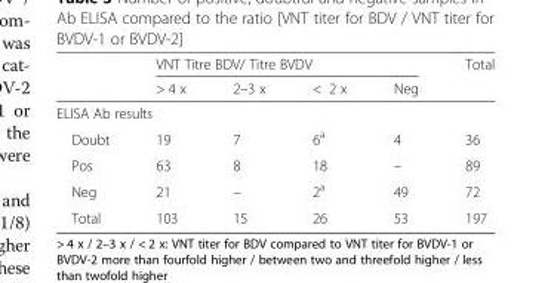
<table><thead><tr><td rowspan="2"></td><td colspan="4">VNT Titre BDV/ Titre BVDV</td><td rowspan="2">Total</td></tr><tr><td>&gt; 4 x</td><td>2–3 x</td><td>&lt; 2 x</td><td>Neg</td></tr></thead><tbody><tr><td colspan="6">ELISA Ab results</td></tr><tr><td>Doubt</td><td>19</td><td>7</td><td>6<sup>a</sup></td><td>4</td><td>36</td></tr><tr><td>Pos</td><td>63</td><td>8</td><td>18</td><td>–</td><td>89</td></tr><tr><td>Neg</td><td>21</td><td>–</td><td>2<sup>a</sup></td><td>49</td><td>72</td></tr><tr><td>Total</td><td>103</td><td>15</td><td>26</td><td>53</td><td>197</td></tr></tbody></table>